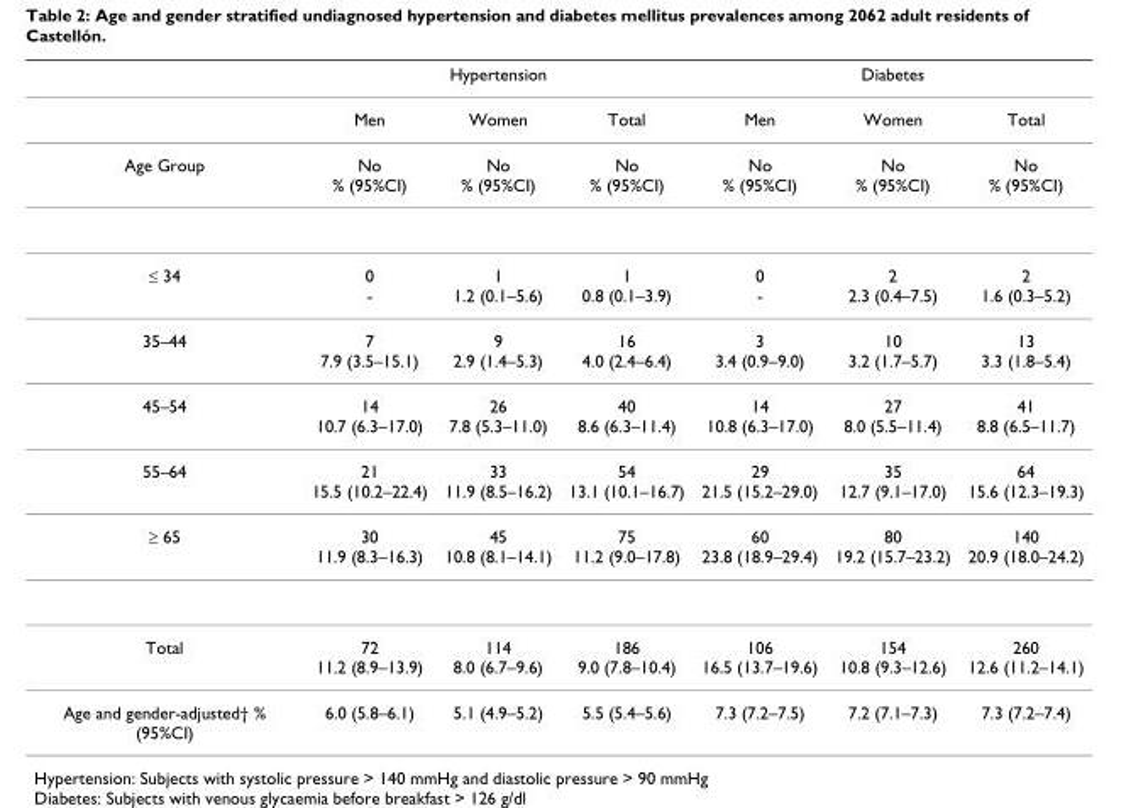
<table><thead><tr><td rowspan="2"></td><td colspan="3">Hypertension</td><td colspan="3">Diabetes</td></tr><tr><td>Men</td><td>Women</td><td>Total</td><td>Men</td><td>Women</td><td>Total</td></tr></thead><tbody><tr><td>Age Group</td><td>No % (95%CI)</td><td>No % (95%CI)</td><td>No % (95%CI)</td><td>No % (95%CI)</td><td>No % (95%CI)</td><td>No % (95%CI)</td></tr><tr><td>≤ 34</td><td>0 -</td><td>1 1.2 (0.1–5.6)</td><td>1 0.8 (0.1–3.9)</td><td>0 -</td><td>2 2.3 (0.4–7.5)</td><td>2 1.6 (0.3–5.2)</td></tr><tr><td>35–44</td><td>7 7.9 (3.5–15.1)</td><td>9 2.9 (1.4–5.3)</td><td>16 4.0 (2.4–6.4)</td><td>3 3.4 (0.9–9.0)</td><td>10 3.2 (1.7–5.7)</td><td>13 3.3 (1.8–5.4)</td></tr><tr><td>45–54</td><td>14 10.7 (6.3–17.0)</td><td>26 7.8 (5.3–11.0)</td><td>40 8.6 (6.3–11.4)</td><td>14 10.8 (6.3–17.0)</td><td>27 8.0 (5.5–11.4)</td><td>41 8.8 (6.5–11.7)</td></tr><tr><td>55–64</td><td>21 15.5 (10.2–22.4)</td><td>33 11.9 (8.5–16.2)</td><td>54 13.1 (10.1–16.7)</td><td>29 21.5 (15.2–29.0)</td><td>35 12.7 (9.1–17.0)</td><td>64 15.6 (12.3–19.3)</td></tr><tr><td>≥ 65</td><td>30 11.9 (8.3–16.3)</td><td>45 10.8 (8.1–14.1)</td><td>75 11.2 (9.0–17.8)</td><td>60 23.8 (18.9–29.4)</td><td>80 19.2 (15.7–23.2)</td><td>140 20.9 (18.0–24.2)</td></tr><tr><td>Total</td><td>72 11.2 (8.9–13.9)</td><td>114 8.0 (6.7–9.6)</td><td>186 9.0 (7.8–10.4)</td><td>106 16.5 (13.7–19.6)</td><td>154 10.8 (9.3–12.6)</td><td>260 12.6 (11.2–14.1)</td></tr><tr><td>Age and gender-adjusted† % (95%CI)</td><td>6.0 (5.8–6.1)</td><td>5.1 (4.9–5.2)</td><td>5.5 (5.4–5.6)</td><td>7.3 (7.2–7.5)</td><td>7.2 (7.1–7.3)</td><td>7.3 (7.2–7.4)</td></tr></tbody></table>